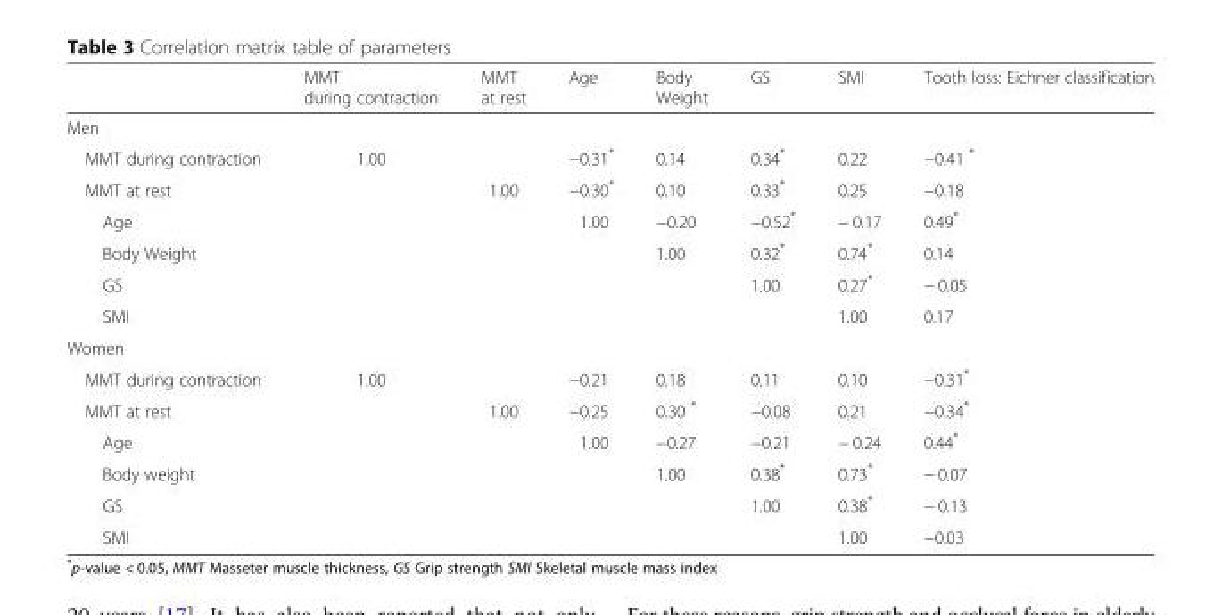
<table><thead><tr><td></td><td>MMT during contraction</td><td>MMT at rest</td><td>Age</td><td>Body Weight</td><td>GS</td><td>SMI</td><td>Tooth loss: Eichner classification</td></tr></thead><tbody><tr><td colspan="8">Men</td></tr><tr><td>MMT during contraction</td><td>1.00</td><td></td><td>−0.31*</td><td>0.14</td><td>0.34*</td><td>0.22</td><td>−0.41 *</td></tr><tr><td>MMT at rest</td><td></td><td>1.00</td><td>−0.30*</td><td>0.10</td><td>0.33*</td><td>0.25</td><td>−0.18</td></tr><tr><td>Age</td><td></td><td></td><td>1.00</td><td>−0.20</td><td>−0.52*</td><td>− 0.17</td><td>0.49*</td></tr><tr><td>Body Weight</td><td></td><td></td><td></td><td>1.00</td><td>0.32*</td><td>0.74*</td><td>0.14</td></tr><tr><td>GS</td><td></td><td></td><td></td><td></td><td>1.00</td><td>0.27*</td><td>− 0.05</td></tr><tr><td>SMI</td><td></td><td></td><td></td><td></td><td></td><td>1.00</td><td>0.17</td></tr><tr><td colspan="8">Women</td></tr><tr><td>MMT during contraction</td><td>1.00</td><td></td><td>−0.21</td><td>0.18</td><td>0.11</td><td>0.10</td><td>−0.31*</td></tr><tr><td>MMT at rest</td><td></td><td>1.00</td><td>−0.25</td><td>0.30 *</td><td>−0.08</td><td>0.21</td><td>−0.34*</td></tr><tr><td>Age</td><td></td><td></td><td>1.00</td><td>−0.27</td><td>−0.21</td><td>− 0.24</td><td>0.44*</td></tr><tr><td>Body weight</td><td></td><td></td><td></td><td>1.00</td><td>0.38*</td><td>0.73*</td><td>− 0.07</td></tr><tr><td>GS</td><td></td><td></td><td></td><td></td><td>1.00</td><td>0.38*</td><td>− 0.13</td></tr><tr><td>SMI</td><td></td><td></td><td></td><td></td><td></td><td>1.00</td><td>−0.03</td></tr></tbody></table>